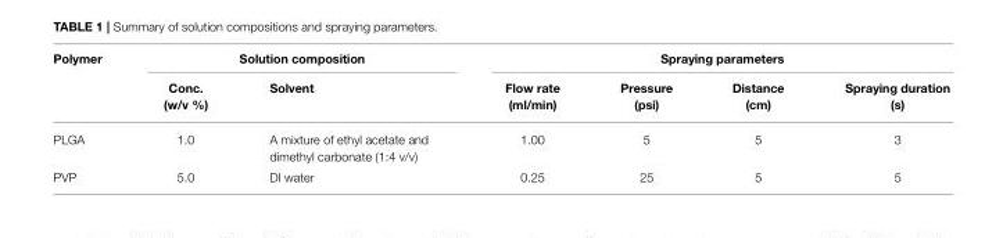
<table><thead><tr><td rowspan="2">Polymer</td><td colspan="2">Solution composition</td><td colspan="4">Spraying parameters</td></tr><tr><td>Conc. (w/v %)</td><td>Solvent</td><td>Flow rate (ml/min)</td><td>Pressure (psi)</td><td>Distance (cm)</td><td>Spraying duration (s)</td></tr></thead><tbody><tr><td>PLGA</td><td>1.0</td><td>A mixture of ethyl acetate and dimethyl carbonate (1:4 v/v)</td><td>1.00</td><td>5</td><td>5</td><td>3</td></tr><tr><td>PVP</td><td>5.0</td><td>DI water</td><td>0.25</td><td>25</td><td>5</td><td>5</td></tr></tbody></table>